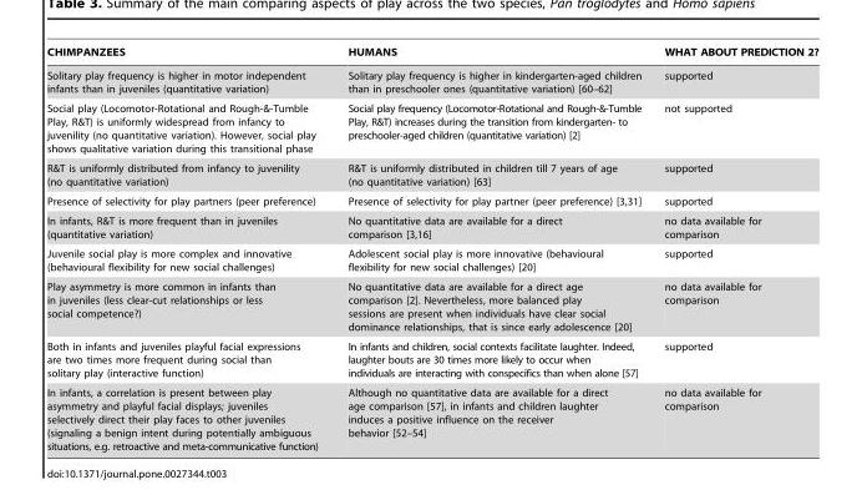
<table><thead><tr><td>CHIMPANZEES</td><td>HUMANS</td><td>WHAT ABOUT PREDICTION 2?</td></tr></thead><tbody><tr><td>Solitary play frequency is higher in motor independent infants than in juveniles (quantitative variation)</td><td>Solitary play frequency is higher in kindergarten-aged children than in preschooler ones (quantitative variation) [60–62]</td><td>supported</td></tr><tr><td>Social play (Locomotor-Rotational and Rough-&amp;-Tumble Play, R&amp;T) is uniformly widespread from infancy to juvenility (no quantitative variation). However, social play shows qualitative variation during this transitional phase</td><td>Social play frequency (Locomotor-Rotational and Rough-&amp;-Tumble Play, R&amp;T) increases during the transition from kindergarten- to preschooler-aged children (quantitative variation) [2]</td><td>not supported</td></tr><tr><td>R&amp;T is uniformly distributed from infancy to juvenility (no quantitative variation)</td><td>R&amp;T is uniformly distributed in children till 7 years of age (no quantitative variation) [63]</td><td>supported</td></tr><tr><td>Presence of selectivity for play partners (peer preference)</td><td>Presence of selectivity for play partner (peer preference) [3,31]</td><td>supported</td></tr><tr><td>In infants, R&amp;T is more frequent than in juveniles (quantitative variation)</td><td>No quantitative data are available for a direct comparison [3,16]</td><td>no data available for comparison</td></tr><tr><td>Juvenile social play is more complex and innovative (behavioural flexibility for new social challenges)</td><td>Adolescent social play is more innovative (behavioural flexibility for new social challenges) [20]</td><td>supported</td></tr><tr><td>Play asymmetry is more common in infants than in juveniles (less clear-cut relationships or less social competence?)</td><td>No quantitative data are available for a direct age comparison [2]. Nevertheless, more balanced play sessions are present when individuals have clear social dominance relationships, that is since early adolescence [20]</td><td>no data available for comparison</td></tr><tr><td>Both in infants and juveniles playful facial expressions are two times more frequent during social than solitary play (interactive function)</td><td>In infants and children, social contexts facilitate laughter. Indeed, laughter bouts are 30 times more likely to occur when individuals are interacting with conspecifics than when alone [57]</td><td>supported</td></tr><tr><td>In infants, a correlation is present between play asymmetry and playful facial displays; juveniles selectively direct their play faces to other juveniles (signaling a benign intent during potentially ambiguous situations, e.g. retroactive and meta-communicative function)</td><td>Although no quantitative data are available for a direct age comparison [57], in infants and children laughter induces a positive influence on the receiver behavior [52–54]</td><td>no data available for comparison</td></tr></tbody></table>